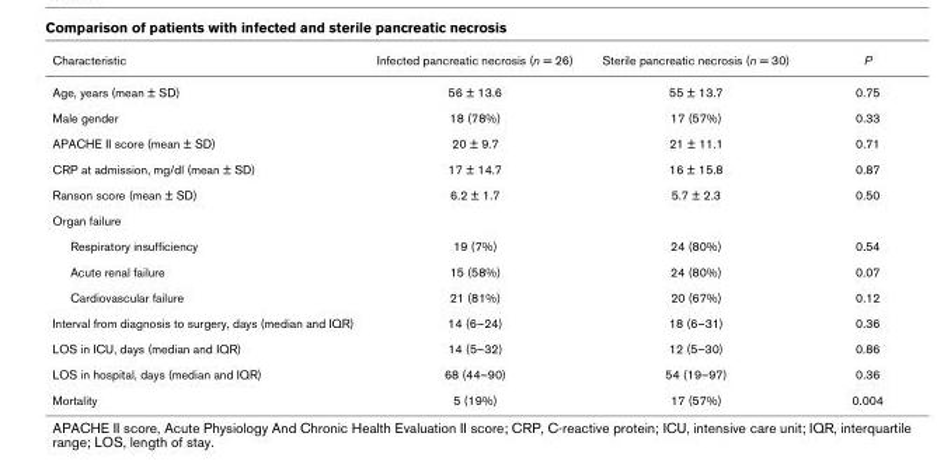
<table><thead><tr><td>Characteristic</td><td>Infected pancreatic necrosis (n = 26)</td><td>Sterile pancreatic necrosis (n = 30)</td><td>P</td></tr></thead><tbody><tr><td>Age, years (mean ± SD)</td><td>56 ± 13.6</td><td>55 ± 13.7</td><td>0.75</td></tr><tr><td>Male gender</td><td>18 (78%)</td><td>17 (57%)</td><td>0.33</td></tr><tr><td>APACHE II score (mean ± SD)</td><td>20 ± 9.7</td><td>21 ± 11.1</td><td>0.71</td></tr><tr><td>CRP at admission, mg/dl (mean ± SD)</td><td>17 ± 14.7</td><td>16 ± 15.8</td><td>0.87</td></tr><tr><td>Ranson score (mean ± SD)</td><td>6.2 ± 1.7</td><td>5.7 ± 2.3</td><td>0.50</td></tr><tr><td colspan="4">Organ failure</td></tr><tr><td>Respiratory insufficiency</td><td>19 (7%)</td><td>24 (80%)</td><td>0.54</td></tr><tr><td>Acute renal failure</td><td>15 (58%)</td><td>24 (80%)</td><td>0.07</td></tr><tr><td>Cardiovascular failure</td><td>21 (81%)</td><td>20 (67%)</td><td>0.12</td></tr><tr><td>Interval from diagnosis to surgery, days (median and IQR)</td><td>14 (6–24)</td><td>18 (6–31)</td><td>0.36</td></tr><tr><td>LOS in ICU, days (median and IQR)</td><td>14 (5–32)</td><td>12 (5–30)</td><td>0.86</td></tr><tr><td>LOS in hospital, days (median and IQR)</td><td>68 (44–90)</td><td>54 (19–97)</td><td>0.36</td></tr><tr><td>Mortality</td><td>5 (19%)</td><td>17 (57%)</td><td>0.004</td></tr></tbody></table>